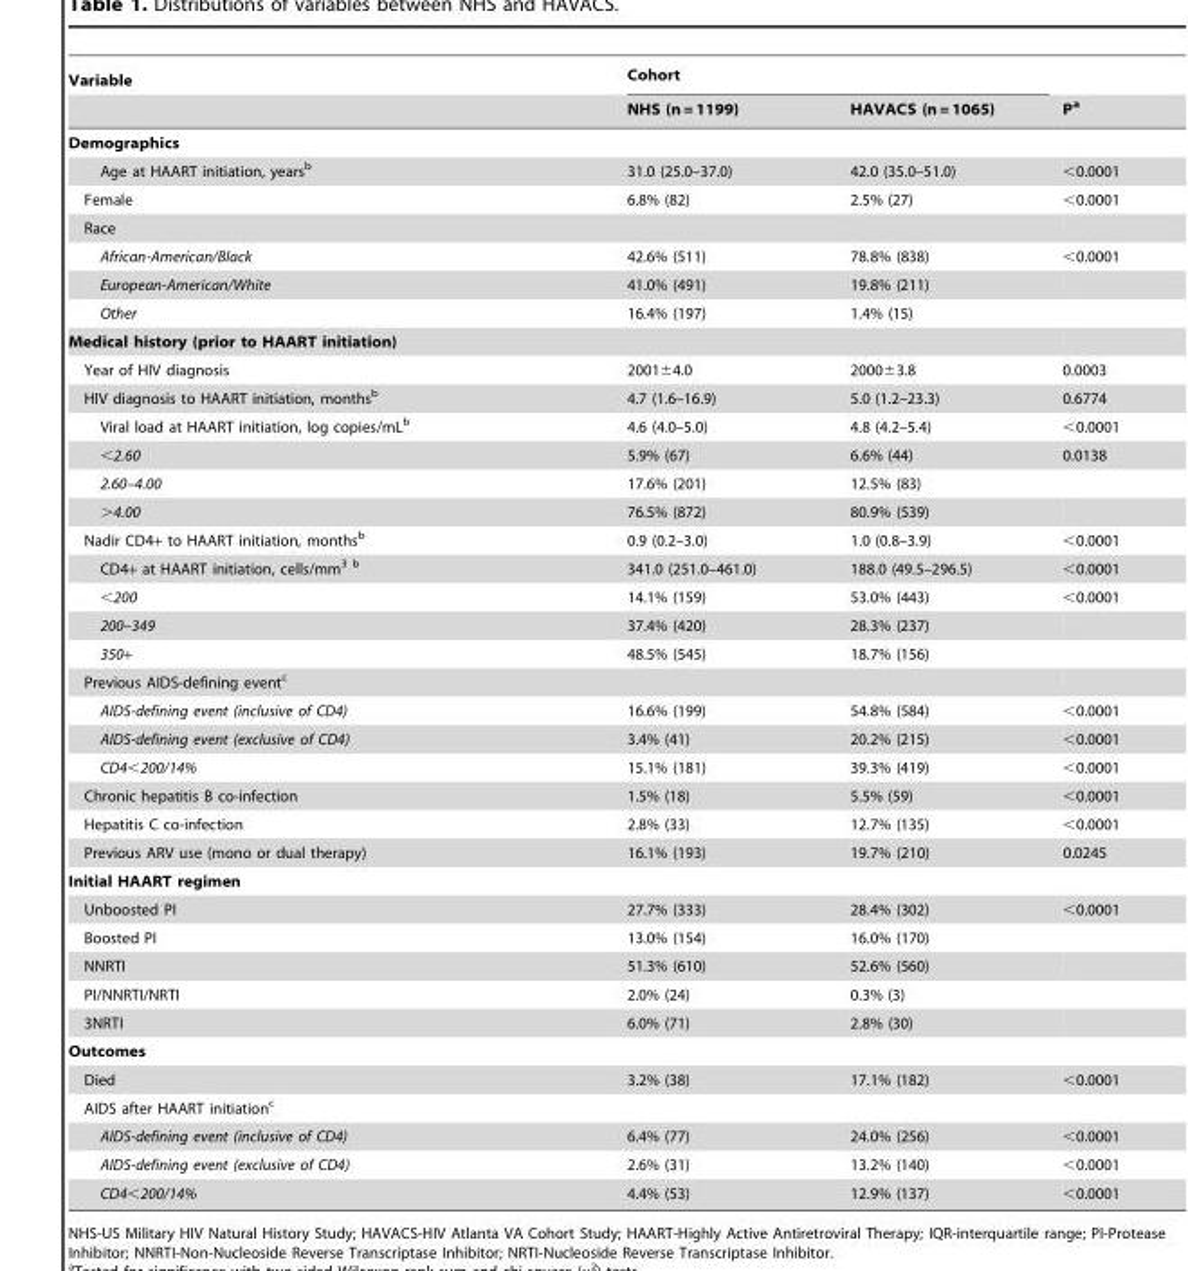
<table><thead><tr><td rowspan="2">Variable</td><td colspan="2">Cohort</td><td rowspan="2">P<sup>a</sup></td></tr><tr><td>NHS (n = 1199)</td><td>HAVACS (n = 1065)</td></tr></thead><tbody><tr><td colspan="4">Demographics</td></tr><tr><td>Age at HAART initiation, years<sup>b</sup></td><td>31.0 (25.0–37.0)</td><td>42.0 (35.0–51.0)</td><td>&lt;0.0001</td></tr><tr><td>Female</td><td>6.8% (82)</td><td>2.5% (27)</td><td>&lt;0.0001</td></tr><tr><td colspan="4">Race</td></tr><tr><td>African-American/Black</td><td>42.6% (511)</td><td>78.8% (838)</td><td>&lt;0.0001</td></tr><tr><td>European-American/White</td><td>41.0% (491)</td><td>19.8% (211)</td><td></td></tr><tr><td>Other</td><td>16.4% (197)</td><td>1.4% (15)</td><td></td></tr><tr><td colspan="4">Medical history (prior to HAART initiation)</td></tr><tr><td>Year of HIV diagnosis</td><td>2001±4.0</td><td>2000±3.8</td><td>0.0003</td></tr><tr><td>HIV diagnosis to HAART initiation, months<sup>b</sup></td><td>4.7 (1.6–16.9)</td><td>5.0 (1.2–23.3)</td><td>0.6774</td></tr><tr><td>Viral load at HAART initiation, log copies/mL<sup>b</sup></td><td>4.6 (4.0–5.0)</td><td>4.8 (4.2–5.4)</td><td>&lt;0.0001</td></tr><tr><td>&lt;2.60</td><td>5.9% (67)</td><td>6.6% (44)</td><td>0.0138</td></tr><tr><td>2.60–4.00</td><td>17.6% (201)</td><td>12.5% (83)</td><td></td></tr><tr><td>&gt;4.00</td><td>76.5% (872)</td><td>80.9% (539)</td><td></td></tr><tr><td>Nadir CD4+ to HAART initiation, months<sup>b</sup></td><td>0.9 (0.2–3.0)</td><td>1.0 (0.8–3.9)</td><td>&lt;0.0001</td></tr><tr><td>CD4+ at HAART initiation, cells/mm<sup>3</sup> b</td><td>341.0 (251.0–461.0)</td><td>188.0 (49.5–296.5)</td><td>&lt;0.0001</td></tr><tr><td>&lt;200</td><td>14.1% (159)</td><td>53.0% (443)</td><td>&lt;0.0001</td></tr><tr><td>200–349</td><td>37.4% (420)</td><td>28.3% (237)</td><td></td></tr><tr><td>350+</td><td>48.5% (545)</td><td>18.7% (156)</td><td></td></tr><tr><td colspan="4">Previous AIDS-defining event<sup>c</sup></td></tr><tr><td>AIDS-defining event (inclusive of CD4)</td><td>16.6% (199)</td><td>54.8% (584)</td><td>&lt;0.0001</td></tr><tr><td>AIDS-defining event (exclusive of CD4)</td><td>3.4% (41)</td><td>20.2% (215)</td><td>&lt;0.0001</td></tr><tr><td>CD4&lt;200/14%</td><td>15.1% (181)</td><td>39.3% (419)</td><td>&lt;0.0001</td></tr><tr><td>Chronic hepatitis B co-infection</td><td>1.5% (18)</td><td>5.5% (59)</td><td>&lt;0.0001</td></tr><tr><td>Hepatitis C co-infection</td><td>2.8% (33)</td><td>12.7% (135)</td><td>&lt;0.0001</td></tr><tr><td>Previous ARV use (mono or dual therapy)</td><td>16.1% (193)</td><td>19.7% (210)</td><td>0.0245</td></tr><tr><td colspan="4">Initial HAART regimen</td></tr><tr><td>Unboosted PI</td><td>27.7% (333)</td><td>28.4% (302)</td><td>&lt;0.0001</td></tr><tr><td>Boosted PI</td><td>13.0% (154)</td><td>16.0% (170)</td><td></td></tr><tr><td>NNRTI</td><td>51.3% (610)</td><td>52.6% (560)</td><td></td></tr><tr><td>PI/NNRTI/NRTI</td><td>2.0% (24)</td><td>0.3% (3)</td><td></td></tr><tr><td>3NRTI</td><td>6.0% (71)</td><td>2.8% (30)</td><td></td></tr><tr><td colspan="4">Outcomes</td></tr><tr><td>Died</td><td>3.2% (38)</td><td>17.1% (182)</td><td>&lt;0.0001</td></tr><tr><td colspan="4">AIDS after HAART initiation<sup>c</sup></td></tr><tr><td>AIDS-defining event (inclusive of CD4)</td><td>6.4% (77)</td><td>24.0% (256)</td><td>&lt;0.0001</td></tr><tr><td>AIDS-defining event (exclusive of CD4)</td><td>2.6% (31)</td><td>13.2% (140)</td><td>&lt;0.0001</td></tr><tr><td>CD4&lt;200/14%</td><td>4.4% (53)</td><td>12.9% (137)</td><td>&lt;0.0001</td></tr></tbody></table>